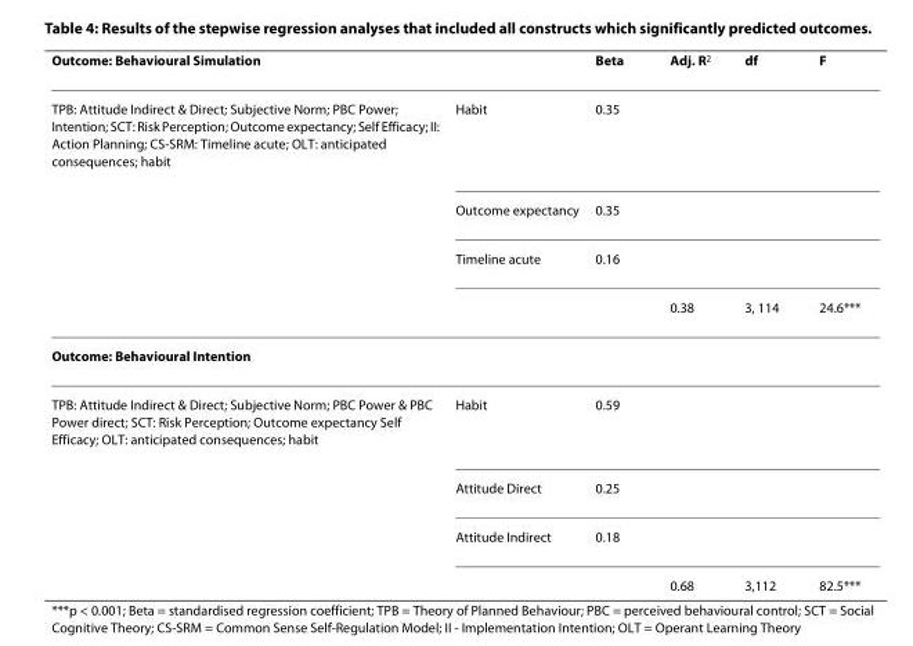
<table><thead><tr><td>Outcome: Behavioural Simulation</td><td></td><td>Beta</td><td>Adj. R<sup>2</sup></td><td>df</td><td>F</td></tr></thead><tbody><tr><td rowspan="4">TPB: Attitude Indirect &amp; Direct; Subjective Norm; PBC Power; Intention; SCT: Risk Perception; Outcome expectancy; Self Efficacy; II: Action Planning; CS-SRM: Timeline acute; OLT: anticipated consequences; habit</td><td>Habit</td><td>0.35</td><td></td><td></td><td></td></tr><tr><td>Outcome expectancy</td><td>0.35</td><td></td><td></td><td></td></tr><tr><td>Timeline acute</td><td>0.16</td><td></td><td></td><td></td></tr><tr><td></td><td></td><td>0.38</td><td>3, 114</td><td>24.6***</td></tr><tr><td colspan="6">Outcome: Behavioural Intention</td></tr><tr><td rowspan="4">TPB: Attitude Indirect &amp; Direct; Subjective Norm; PBC Power &amp; PBC Power direct; SCT: Risk Perception; Outcome expectancy Self Efficacy; OLT: anticipated consequences; habit</td><td>Habit</td><td>0.59</td><td></td><td></td><td></td></tr><tr><td>Attitude Direct</td><td>0.25</td><td></td><td></td><td></td></tr><tr><td>Attitude Indirect</td><td>0.18</td><td></td><td></td><td></td></tr><tr><td></td><td></td><td>0.68</td><td>3,112</td><td>82.5***</td></tr></tbody></table>